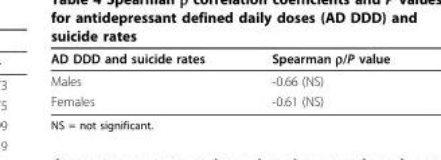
<table><thead><tr><td>AD DDD and suicide rates</td><td>Spearman ρ/P value</td></tr></thead><tbody><tr><td>Males</td><td>-0.66 (NS)</td></tr><tr><td>Females</td><td>-0.61 (NS)</td></tr></tbody></table>